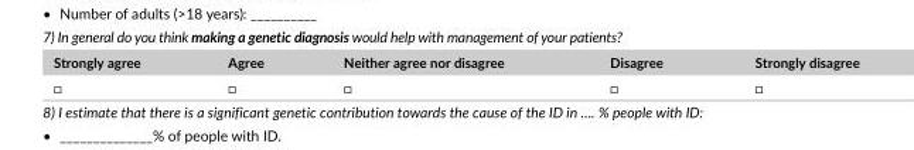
<table><thead><tr><td>Strongly agree</td><td>Agree</td><td>Neither agree nor disagree</td><td>Disagree</td><td>Strongly disagree</td></tr></thead><tbody><tr><td>□</td><td>□</td><td>□</td><td>□</td><td>□</td></tr></tbody></table>